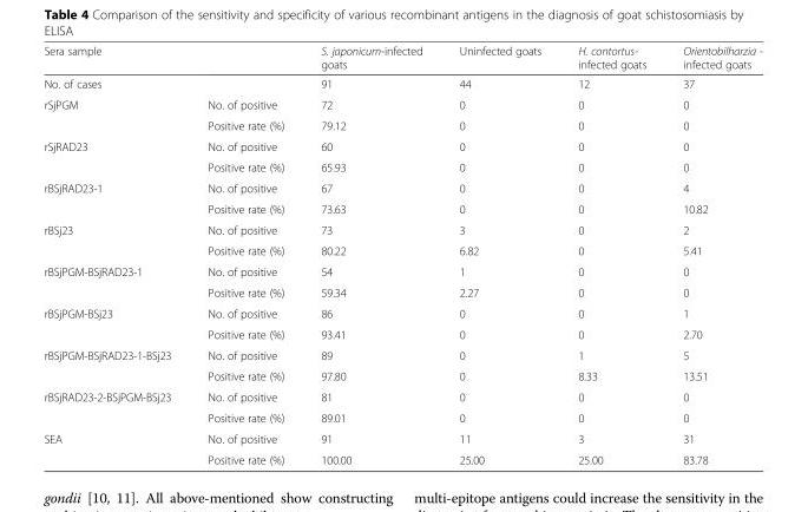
<table><thead><tr><td>Sera sample</td><td></td><td>S. japonicum-infected goats</td><td>Uninfected goats</td><td>H. contortus- infected goats</td><td>Orientobilharzia - infected goats</td></tr></thead><tbody><tr><td>No. of cases</td><td></td><td>91</td><td>44</td><td>12</td><td>37</td></tr><tr><td rowspan="2">rSjPGM</td><td>No. of positive</td><td>72</td><td>0</td><td>0</td><td>0</td></tr><tr><td>Positive rate (%)</td><td>79.12</td><td>0</td><td>0</td><td>0</td></tr><tr><td rowspan="2">rSjRAD23</td><td>No. of positive</td><td>60</td><td>0</td><td>0</td><td>0</td></tr><tr><td>Positive rate (%)</td><td>65.93</td><td>0</td><td>0</td><td>0</td></tr><tr><td rowspan="2">rBSjRAD23-1</td><td>No. of positive</td><td>67</td><td>0</td><td>0</td><td>4</td></tr><tr><td>Positive rate (%)</td><td>73.63</td><td>0</td><td>0</td><td>10.82</td></tr><tr><td rowspan="2">rBSj23</td><td>No. of positive</td><td>73</td><td>3</td><td>0</td><td>2</td></tr><tr><td>Positive rate (%)</td><td>80.22</td><td>6.82</td><td>0</td><td>5.41</td></tr><tr><td rowspan="2">rBSjPGM-BSjRAD23-1</td><td>No. of positive</td><td>54</td><td>1</td><td>0</td><td>0</td></tr><tr><td>Positive rate (%)</td><td>59.34</td><td>2.27</td><td>0</td><td>0</td></tr><tr><td rowspan="2">rBSjPGM-BSj23</td><td>No. of positive</td><td>86</td><td>0</td><td>0</td><td>1</td></tr><tr><td>Positive rate (%)</td><td>93.41</td><td>0</td><td>0</td><td>2.70</td></tr><tr><td rowspan="2">rBSjPGM-BSjRAD23-1-BSj23</td><td>No. of positive</td><td>89</td><td>0</td><td>1</td><td>5</td></tr><tr><td>Positive rate (%)</td><td>97.80</td><td>0</td><td>8.33</td><td>13.51</td></tr><tr><td rowspan="2">rBSjRAD23-2-BSjPGM-BSj23</td><td>No. of positive</td><td>81</td><td>0</td><td>0</td><td>0</td></tr><tr><td>Positive rate (%)</td><td>89.01</td><td>0</td><td>0</td><td>0</td></tr><tr><td rowspan="2">SEA</td><td>No. of positive</td><td>91</td><td>11</td><td>3</td><td>31</td></tr><tr><td>Positive rate (%)</td><td>100.00</td><td>25.00</td><td>25.00</td><td>83.78</td></tr></tbody></table>